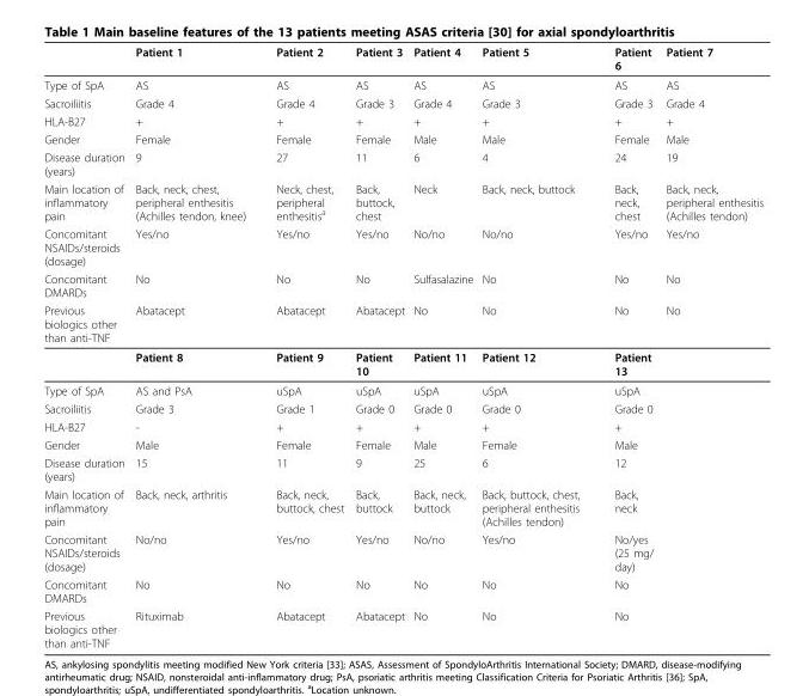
<table><thead><tr><td></td><td>Patient 1</td><td>Patient 2</td><td>Patient 3</td><td>Patient 4</td><td>Patient 5</td><td>Patient 6</td><td>Patient 7</td></tr></thead><tbody><tr><td>Type of SpA</td><td>AS</td><td>AS</td><td>AS</td><td>AS</td><td>AS</td><td>AS</td><td>AS</td></tr><tr><td>Sacroiliitis</td><td>Grade 4</td><td>Grade 4</td><td>Grade 3</td><td>Grade 4</td><td>Grade 3</td><td>Grade 3</td><td>Grade 4</td></tr><tr><td>HLA-B27</td><td>+</td><td>+</td><td>+</td><td>+</td><td>+</td><td>+</td><td>+</td></tr><tr><td>Gender</td><td>Female</td><td>Female</td><td>Female</td><td>Male</td><td>Male</td><td>Female</td><td>Male</td></tr><tr><td>Disease duration (years)</td><td>9</td><td>27</td><td>11</td><td>6</td><td>4</td><td>24</td><td>19</td></tr><tr><td>Main location of inflammatory pain</td><td>Back, neck, chest, peripheral enthesitis (Achilles tendon, knee)</td><td>Neck, chest, peripheral enthesitis<sup>a</sup></td><td>Back, buttock, chest</td><td>Neck</td><td>Back, neck, buttock</td><td>Back, neck, chest</td><td>Back, neck, peripheral enthesitis (Achilles tendon)</td></tr><tr><td>Concomitant NSAIDs/steroids (dosage)</td><td>Yes/no</td><td>Yes/no</td><td>Yes/no</td><td>No/no</td><td>No/no</td><td>Yes/no</td><td>Yes/no</td></tr><tr><td>Concomitant DMARDs</td><td>No</td><td>No</td><td>No</td><td>Sulfasalazine</td><td>No</td><td>No</td><td>No</td></tr><tr><td rowspan="2">Previous biologics other than anti-TNF</td><td>Abatacept</td><td>Abatacept</td><td>Abatacept</td><td>No</td><td>No</td><td>No</td><td>No</td></tr><tr><td>Patient 8</td><td>Patient 9</td><td>Patient 10</td><td>Patient 11</td><td>Patient 12</td><td>Patient 13</td><td></td></tr><tr><td>Type of SpA</td><td>AS and PsA</td><td>uSpA</td><td>uSpA</td><td>uSpA</td><td>uSpA</td><td>uSpA</td><td></td></tr><tr><td>Sacroiliitis</td><td>Grade 3</td><td>Grade 1</td><td>Grade 0</td><td>Grade 0</td><td>Grade 0</td><td>Grade 0</td><td></td></tr><tr><td>HLA-B27</td><td>-</td><td>+</td><td>+</td><td>+</td><td>+</td><td>+</td><td></td></tr><tr><td>Gender</td><td>Male</td><td>Female</td><td>Female</td><td>Male</td><td>Female</td><td>Male</td><td></td></tr><tr><td>Disease duration (years)</td><td>15</td><td>11</td><td>9</td><td>25</td><td>6</td><td>12</td><td></td></tr><tr><td>Main location of inflammatory pain</td><td>Back, neck, arthritis</td><td>Back, neck, buttock, chest</td><td>Back, buttock</td><td>Back, neck, buttock</td><td>Back, buttock, chest, peripheral enthesitis (Achilles tendon)</td><td>Back, neck</td><td></td></tr><tr><td>Concomitant NSAIDs/steroids (dosage)</td><td>No/no</td><td>Yes/no</td><td>Yes/no</td><td>No/no</td><td>Yes/no</td><td>No/yes (25 mg/ day)</td><td></td></tr><tr><td>Concomitant DMARDs</td><td>No</td><td>No</td><td>No</td><td>No</td><td>No</td><td>No</td><td></td></tr><tr><td>Previous biologics other than anti-TNF</td><td>Rituximab</td><td>Abatacept</td><td>Abatacept</td><td>No</td><td>No</td><td>No</td><td></td></tr></tbody></table>